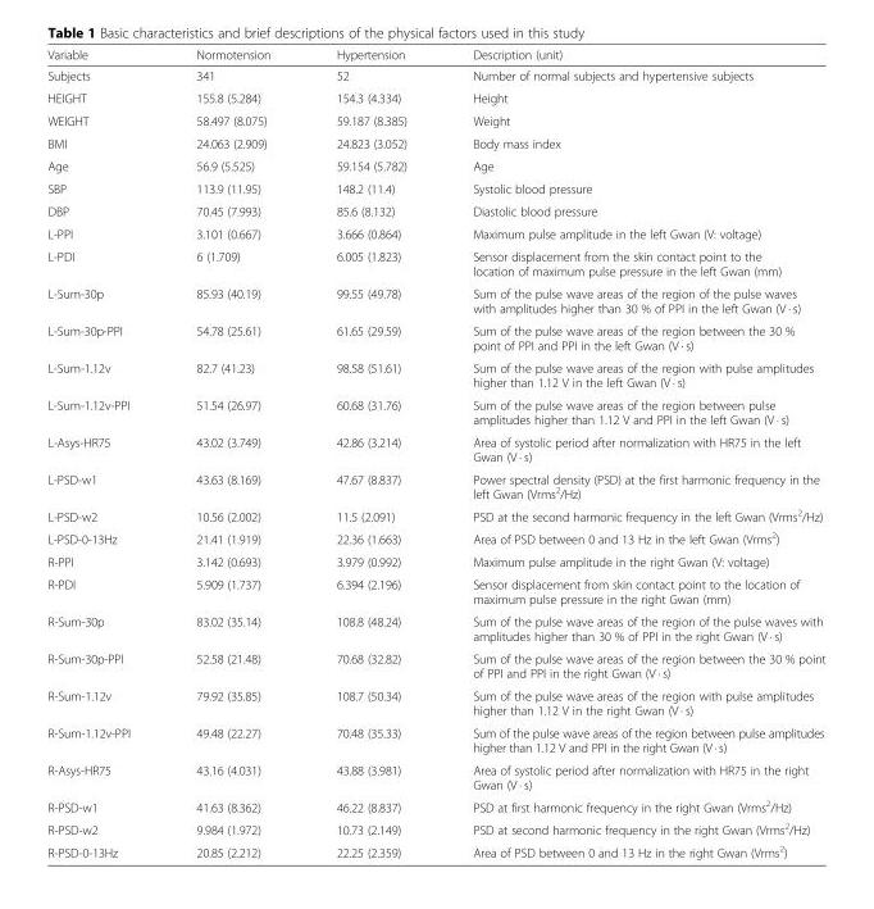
<table><thead><tr><td>Variable</td><td>Normotension</td><td>Hypertension</td><td>Description (unit)</td></tr></thead><tbody><tr><td>Subjects</td><td>341</td><td>52</td><td>Number of normal subjects and hypertensive subjects</td></tr><tr><td>HEIGHT</td><td>155.8 (5.284)</td><td>154.3 (4.334)</td><td>Height</td></tr><tr><td>WEIGHT</td><td>58.497 (8.075)</td><td>59.187 (8.385)</td><td>Weight</td></tr><tr><td>BMI</td><td>24.063 (2.909)</td><td>24.823 (3.052)</td><td>Body mass index</td></tr><tr><td>Age</td><td>56.9 (5.525)</td><td>59.154 (5.782)</td><td>Age</td></tr><tr><td>SBP</td><td>113.9 (11.95)</td><td>148.2 (11.4)</td><td>Systolic blood pressure</td></tr><tr><td>DBP</td><td>70.45 (7.993)</td><td>85.6 (8.132)</td><td>Diastolic blood pressure</td></tr><tr><td>L-PPI</td><td>3.101 (0.667)</td><td>3.666 (0.864)</td><td>Maximum pulse amplitude in the left Gwan (V: voltage)</td></tr><tr><td>L-PDI</td><td>6 (1.709)</td><td>6.005 (1.823)</td><td>Sensor displacement from the skin contact point to the location of maximum pulse pressure in the left Gwan (mm)</td></tr><tr><td>L-Sum-30p</td><td>85.93 (40.19)</td><td>99.55 (49.78)</td><td>Sum of the pulse wave areas of the region of the pulse waves with amplitudes higher than 30 % of PPI in the left Gwan (V · s)</td></tr><tr><td>L-Sum-30p-PPI</td><td>54.78 (25.61)</td><td>61.65 (29.59)</td><td>Sum of the pulse wave areas of the region between the 30 % point of PPI and PPI in the left Gwan (V · s)</td></tr><tr><td>L-Sum-1.12v</td><td>82.7 (41.23)</td><td>98.58 (51.61)</td><td>Sum of the pulse wave areas of the region with pulse amplitudes higher than 1.12 V in the left Gwan (V · s)</td></tr><tr><td>L-Sum-1.12v-PPI</td><td>51.54 (26.97)</td><td>60.68 (31.76)</td><td>Sum of the pulse wave areas of the region between pulse amplitudes higher than 1.12 V and PPI in the left Gwan (V · s)</td></tr><tr><td>L-Asys-HR75</td><td>43.02 (3.749)</td><td>42.86 (3.214)</td><td>Area of systolic period after normalization with HR75 in the left Gwan (V · s)</td></tr><tr><td>L-PSD-w1</td><td>43.63 (8.169)</td><td>47.67 (8.837)</td><td>Power spectral density (PSD) at the first harmonic frequency in the left Gwan (Vrms<sup>2</sup>/Hz)</td></tr><tr><td>L-PSD-w2</td><td>10.56 (2.002)</td><td>11.5 (2.091)</td><td>PSD at the second harmonic frequency in the left Gwan (Vrms<sup>2</sup>/Hz)</td></tr><tr><td>L-PSD-0-13Hz</td><td>21.41 (1.919)</td><td>22.36 (1.663)</td><td>Area of PSD between 0 and 13 Hz in the left Gwan (Vrms<sup>2</sup>)</td></tr><tr><td>R-PPI</td><td>3.142 (0.693)</td><td>3.979 (0.992)</td><td>Maximum pulse amplitude in the right Gwan (V: voltage)</td></tr><tr><td>R-PDI</td><td>5.909 (1.737)</td><td>6.394 (2.196)</td><td>Sensor displacement from skin contact point to the location of maximum pulse pressure in the right Gwan (mm)</td></tr><tr><td>R-Sum-30p</td><td>83.02 (35.14)</td><td>108.8 (48.24)</td><td>Sum of the pulse wave areas of the region of the pulse waves with amplitudes higher than 30 % of PPI in the right Gwan (V · s)</td></tr><tr><td>R-Sum-30p-PPI</td><td>52.58 (21.48)</td><td>70.68 (32.82)</td><td>Sum of the pulse wave areas of the region between the 30 % point of PPI and PPI in the right Gwan (V · s)</td></tr><tr><td>R-Sum-1.12v</td><td>79.92 (35.85)</td><td>108.7 (50.34)</td><td>Sum of the pulse wave areas of the region with pulse amplitudes higher than 1.12 V in the right Gwan (V · s)</td></tr><tr><td>R-Sum-1.12v-PPI</td><td>49.48 (22.27)</td><td>70.48 (35.33)</td><td>Sum of the pulse wave areas of the region between pulse amplitudes higher than 1.12 V and PPI in the right Gwan (V · s)</td></tr><tr><td>R-Asys-HR75</td><td>43.16 (4.031)</td><td>43.88 (3.981)</td><td>Area of systolic period after normalization with HR75 in the right Gwan (V · s)</td></tr><tr><td>R-PSD-w1</td><td>41.63 (8.362)</td><td>46.22 (8.837)</td><td>PSD at first harmonic frequency in the right Gwan (Vrms<sup>2</sup>/Hz)</td></tr><tr><td>R-PSD-w2</td><td>9.984 (1.972)</td><td>10.73 (2.149)</td><td>PSD at second harmonic frequency in the right Gwan (Vrms<sup>2</sup>/Hz)</td></tr><tr><td>R-PSD-0-13Hz</td><td>20.85 (2.212)</td><td>22.25 (2.359)</td><td>Area of PSD between 0 and 13 Hz in the right Gwan (Vrms<sup>2</sup>)</td></tr></tbody></table>